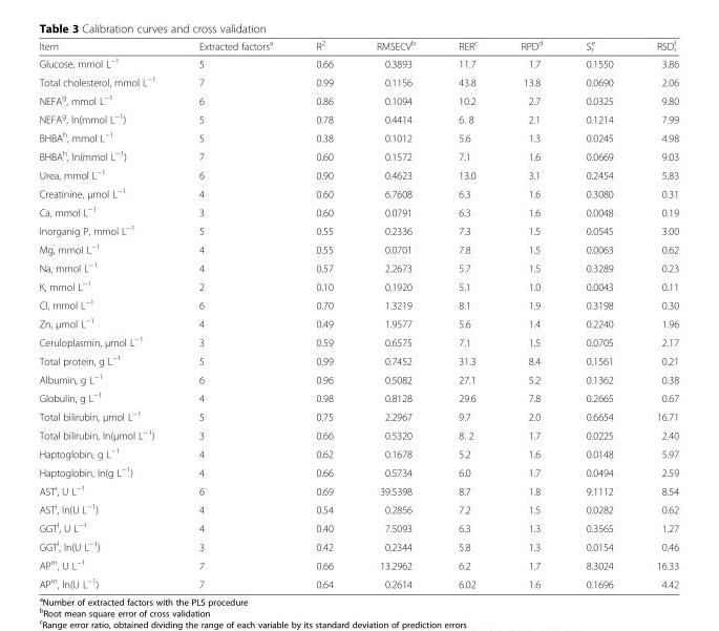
<table><thead><tr><td>Item</td><td>Extracted factors<sup>a</sup></td><td>R<sup>2</sup></td><td>RMSECV<sup>b</sup></td><td>RER<sup>c</sup></td><td>RPD<sup>d</sup></td><td>S<sub>r</sub> <sup>e</sup></td><td>RSD<sub>r</sub> <sup>f</sup></td></tr></thead><tbody><tr><td>Glucose, mmol L<sup>−1</sup></td><td>5</td><td>0.66</td><td>0.3893</td><td>11.7</td><td>1.7</td><td>0.1550</td><td>3.86</td></tr><tr><td>Total cholesterol, mmol L<sup>−1</sup></td><td>7</td><td>0.99</td><td>0.1156</td><td>43.8</td><td>13.8</td><td>0.0690</td><td>2.06</td></tr><tr><td>NEFA<sup>g</sup>, mmol L<sup>−1</sup></td><td>6</td><td>0.86</td><td>0.1094</td><td>10.2</td><td>2.7</td><td>0.0325</td><td>9.80</td></tr><tr><td>NEFA<sup>g</sup>, ln(mmol L<sup>−1</sup>)</td><td>5</td><td>0.78</td><td>0.4414</td><td>6. 8</td><td>2.1</td><td>0.1214</td><td>7.99</td></tr><tr><td>BHBA<sup>h</sup>, mmol L<sup>−1</sup></td><td>5</td><td>0.38</td><td>0.1012</td><td>5.6</td><td>1.3</td><td>0.0245</td><td>4.98</td></tr><tr><td>BHBA<sup>h</sup>, ln(mmol L<sup>−1</sup>)</td><td>7</td><td>0.60</td><td>0.1572</td><td>7.1</td><td>1.6</td><td>0.0669</td><td>9.03</td></tr><tr><td>Urea, mmol L<sup>−1</sup></td><td>6</td><td>0.90</td><td>0.4623</td><td>13.0</td><td>3.1</td><td>0.2454</td><td>5.83</td></tr><tr><td>Creatinine, μmol L<sup>−1</sup></td><td>4</td><td>0.60</td><td>6.7608</td><td>6.3</td><td>1.6</td><td>0.3080</td><td>0.31</td></tr><tr><td>Ca, mmol L<sup>−1</sup></td><td>3</td><td>0.60</td><td>0.0791</td><td>6.3</td><td>1.6</td><td>0.0048</td><td>0.19</td></tr><tr><td>Inorganig P, mmol L<sup>−1</sup></td><td>5</td><td>0.55</td><td>0.2336</td><td>7.3</td><td>1.5</td><td>0.0545</td><td>3.00</td></tr><tr><td>Mg, mmol L<sup>−1</sup></td><td>4</td><td>0.55</td><td>0.0701</td><td>7.8</td><td>1.5</td><td>0.0063</td><td>0.62</td></tr><tr><td>Na, mmol L<sup>−1</sup></td><td>4</td><td>0.57</td><td>2.2673</td><td>5.7</td><td>1.5</td><td>0.3289</td><td>0.23</td></tr><tr><td>K, mmol L<sup>−1</sup></td><td>2</td><td>0.10</td><td>0.1920</td><td>5.1</td><td>1.0</td><td>0.0043</td><td>0.11</td></tr><tr><td>Cl, mmol L<sup>−1</sup></td><td>6</td><td>0.70</td><td>1.3219</td><td>8.1</td><td>1.9</td><td>0.3198</td><td>0.30</td></tr><tr><td>Zn, μmol L<sup>−1</sup></td><td>4</td><td>0.49</td><td>1.9577</td><td>5.6</td><td>1.4</td><td>0.2240</td><td>1.96</td></tr><tr><td>Ceruloplasmin, μmol L<sup>−1</sup></td><td>3</td><td>0.59</td><td>0.6575</td><td>7.1</td><td>1.5</td><td>0.0705</td><td>2.17</td></tr><tr><td>Total protein, g L<sup>−1</sup></td><td>5</td><td>0.99</td><td>0.7452</td><td>31.3</td><td>8.4</td><td>0.1561</td><td>0.21</td></tr><tr><td>Albumin, g L<sup>−1</sup></td><td>6</td><td>0.96</td><td>0.5082</td><td>27.1</td><td>5.2</td><td>0.1362</td><td>0.38</td></tr><tr><td>Globulin, g L<sup>−1</sup></td><td>4</td><td>0.98</td><td>0.8128</td><td>29.6</td><td>7.8</td><td>0.2665</td><td>0.67</td></tr><tr><td>Total bilirubin, μmol L<sup>−1</sup></td><td>5</td><td>0.75</td><td>2.2967</td><td>9.7</td><td>2.0</td><td>0.6654</td><td>16.71</td></tr><tr><td>Total bilirubin, ln(μmol L<sup>−1</sup>)</td><td>3</td><td>0.66</td><td>0.5320</td><td>8. 2</td><td>1.7</td><td>0.0225</td><td>2.40</td></tr><tr><td>Haptoglobin, g L<sup>−1</sup></td><td>4</td><td>0.62</td><td>0.1678</td><td>5.2</td><td>1.6</td><td>0.0148</td><td>5.97</td></tr><tr><td>Haptoglobin, ln(g L<sup>−1</sup>)</td><td>4</td><td>0.66</td><td>0.5734</td><td>6.0</td><td>1.7</td><td>0.0494</td><td>2.59</td></tr><tr><td>AST<sup>i</sup>, U L<sup>−1</sup></td><td>6</td><td>0.69</td><td>39.5398</td><td>8.7</td><td>1.8</td><td>9.1112</td><td>8.54</td></tr><tr><td>AST<sup>i</sup>, ln(U L<sup>−1</sup>)</td><td>4</td><td>0.54</td><td>0.2856</td><td>7.2</td><td>1.5</td><td>0.0282</td><td>0.62</td></tr><tr><td>GGT<sup>l</sup>, U L<sup>−1</sup></td><td>4</td><td>0.40</td><td>7.5093</td><td>6.3</td><td>1.3</td><td>0.3565</td><td>1.27</td></tr><tr><td>GGT<sup>l</sup>, ln(U L<sup>−1</sup>)</td><td>3</td><td>0.42</td><td>0.2344</td><td>5.8</td><td>1.3</td><td>0.0154</td><td>0.46</td></tr><tr><td>AP<sup>m</sup>, U L<sup>−1</sup></td><td>7</td><td>0.66</td><td>13.2962</td><td>6.2</td><td>1.7</td><td>8.3024</td><td>16.33</td></tr><tr><td>AP<sup>m</sup>, ln(U L<sup>−1</sup>)</td><td>7</td><td>0.64</td><td>0.2614</td><td>6.02</td><td>1.6</td><td>0.1696</td><td>4.42</td></tr></tbody></table>